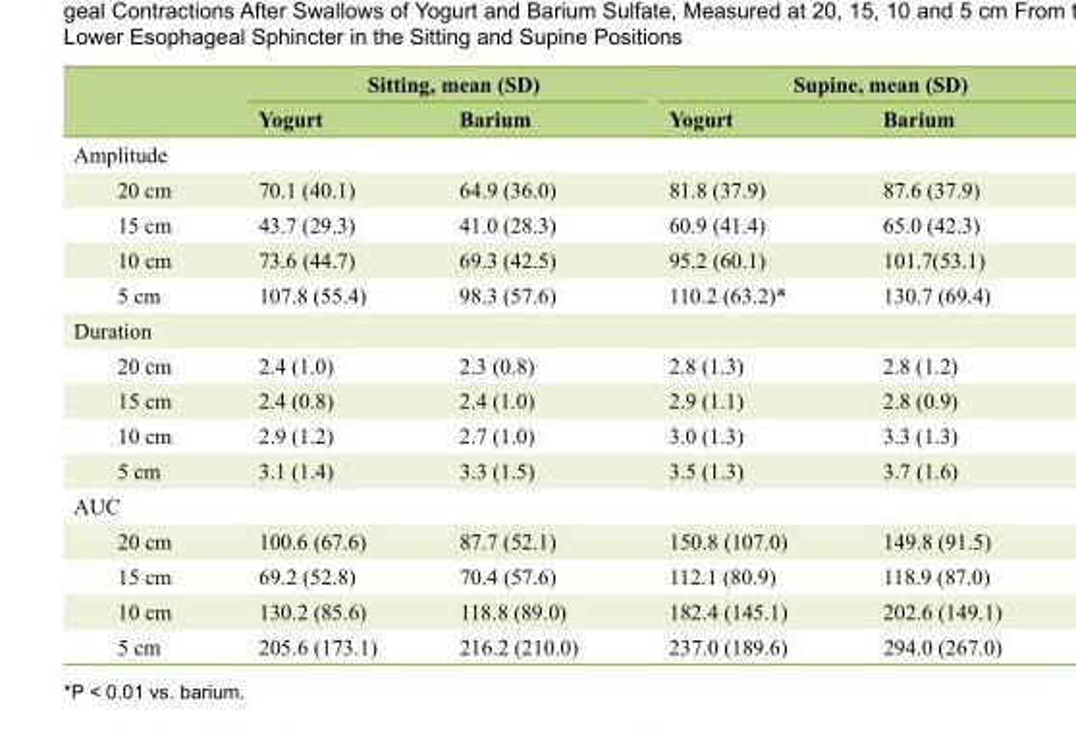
<table><thead><tr><td rowspan="2"></td><td colspan="2">Sitting, mean (SD)</td><td colspan="2">Supine, mean (SD)</td></tr><tr><td>Yogurt</td><td>Barium</td><td>Yogurt</td><td>Barium</td></tr></thead><tbody><tr><td colspan="5">Amplitude</td></tr><tr><td>20 cm</td><td>70.1 (40.1)</td><td>64.9 (36.0)</td><td>81.8 (37.9)</td><td>87.6 (37.9)</td></tr><tr><td>15 cm</td><td>43.7 (29.3)</td><td>41.0 (28.3)</td><td>60.9 (41.4)</td><td>65.0 (42.3)</td></tr><tr><td>10 cm</td><td>73.6 (44.7)</td><td>69.3 (42.5)</td><td>95.2 (60.1)</td><td>101.7(53.1)</td></tr><tr><td>5 cm</td><td>107.8 (55.4)</td><td>98.3 (57.6)</td><td>110.2 (63.2)*</td><td>130.7 (69.4)</td></tr><tr><td colspan="5">Duration</td></tr><tr><td>20 cm</td><td>2.4 (1.0)</td><td>2.3 (0.8)</td><td>2.8 (1.3)</td><td>2.8 (1.2)</td></tr><tr><td>15 cm</td><td>2.4 (0.8)</td><td>2.4 (1.0)</td><td>2.9 (1.1)</td><td>2.8 (0.9)</td></tr><tr><td>10 cm</td><td>2.9 (1.2)</td><td>2.7 (1.0)</td><td>3.0 (1.3)</td><td>3.3 (1.3)</td></tr><tr><td>5 cm</td><td>3.1 (1.4)</td><td>3.3 (1.5)</td><td>3.5 (1.3)</td><td>3.7 (1.6)</td></tr><tr><td colspan="5">AUC</td></tr><tr><td>20 cm</td><td>100.6 (67.6)</td><td>87.7 (52.1)</td><td>150.8 (107.0)</td><td>149.8 (91.5)</td></tr><tr><td>15 cm</td><td>69.2 (52.8)</td><td>70.4 (57.6)</td><td>112.1 (80.9)</td><td>118.9 (87.0)</td></tr><tr><td>10 cm</td><td>130.2 (85.6)</td><td>118.8 (89.0)</td><td>182.4 (145.1)</td><td>202.6 (149.1)</td></tr><tr><td>5 cm</td><td>205.6 (173.1)</td><td>216.2 (210.0)</td><td>237.0 (189.6)</td><td>294.0 (267.0)</td></tr></tbody></table>